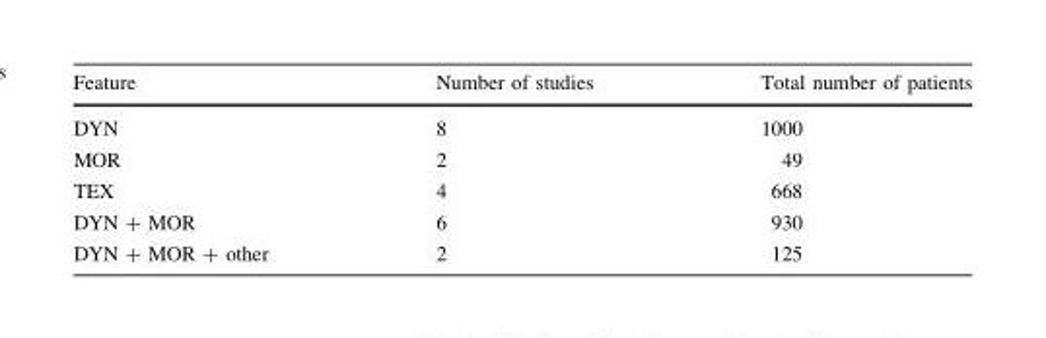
<table><thead><tr><td>Feature</td><td>Number of studies</td><td>Total number of patients</td></tr></thead><tbody><tr><td>DYN</td><td>8</td><td>1000</td></tr><tr><td>MOR</td><td>2</td><td>49</td></tr><tr><td>TEX</td><td>4</td><td>668</td></tr><tr><td>DYN + MOR</td><td>6</td><td>930</td></tr><tr><td>DYN + MOR + other</td><td>2</td><td>125</td></tr></tbody></table>